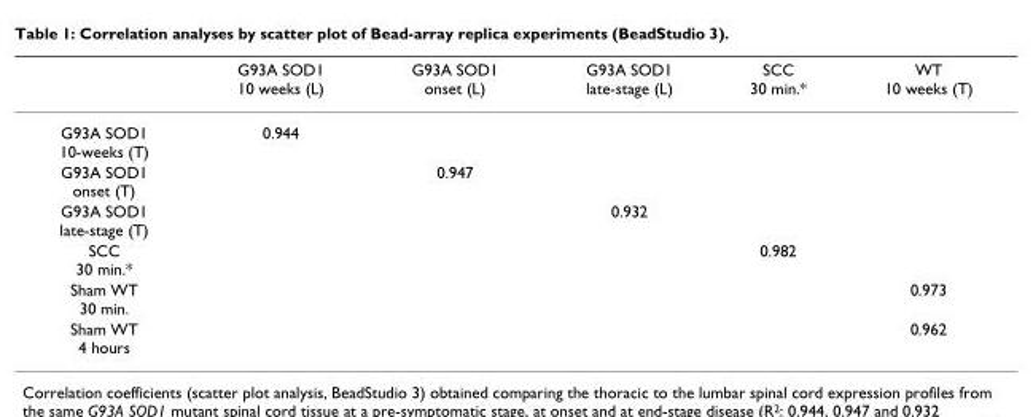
<table><thead><tr><td></td><td>G93A SOD1 10 weeks (L)</td><td>G93A SOD1 onset (L)</td><td>G93A SOD1 late-stage (L)</td><td>SCC 30 min.*</td><td>WT 10 weeks (T)</td></tr></thead><tbody><tr><td>G93A SOD1 10-weeks (T)</td><td>0.944</td><td></td><td></td><td></td><td></td></tr><tr><td>G93A SOD1 onset (T)</td><td></td><td>0.947</td><td></td><td></td><td></td></tr><tr><td>G93A SOD1 late-stage (T)</td><td></td><td></td><td>0.932</td><td></td><td></td></tr><tr><td>SCC 30 min.*</td><td></td><td></td><td></td><td>0.982</td><td></td></tr><tr><td>Sham WT 30 min.</td><td></td><td></td><td></td><td></td><td>0.973</td></tr><tr><td>Sham WT 4 hours</td><td></td><td></td><td></td><td></td><td>0.962</td></tr></tbody></table>